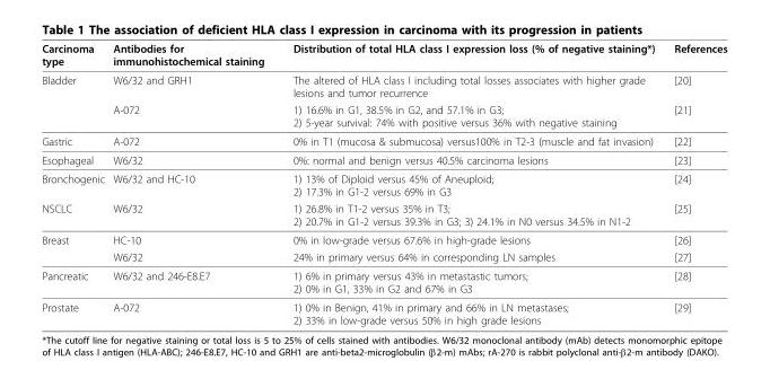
<table><thead><tr><td>Carcinoma type</td><td>Antibodies for immunohistochemical staining</td><td>Distribution of total HLA class I expression loss (% of negative staining*)</td><td>References</td></tr></thead><tbody><tr><td rowspan="2">Bladder</td><td>W6/32 and GRH1</td><td>The altered of HLA class I including total losses associates with higher grade lesions and tumor recurrence</td><td>[20]</td></tr><tr><td>A-072</td><td>1) 16.6% in G1, 38.5% in G2, and 57.1% in G3; 2) 5-year survival: 74% with positive versus 36% with negative staining</td><td>[21]</td></tr><tr><td>Gastric</td><td>A-072</td><td>0% in T1 (mucosa &amp; submucosa) versus100% in T2-3 (muscle and fat invasion)</td><td>[22]</td></tr><tr><td>Esophageal</td><td>W6/32</td><td>0%: normal and benign versus 40.5% carcinoma lesions</td><td>[23]</td></tr><tr><td>Bronchogenic</td><td>W6/32 and HC-10</td><td>1) 13% of Diploid versus 45% of Aneuploid; 2) 17.3% in G1-2 versus 69% in G3</td><td>[24]</td></tr><tr><td>NSCLC</td><td>W6/32</td><td>1) 26.8% in T1-2 versus 35% in T3; 2) 20.7% in G1-2 versus 39.3% in G3; 3) 24.1% in N0 versus 34.5% in N1-2</td><td>[25]</td></tr><tr><td rowspan="2">Breast</td><td>HC-10</td><td>0% in low-grade versus 67.6% in high-grade lesions</td><td>[26]</td></tr><tr><td>W6/32</td><td>24% in primary versus 64% in corresponding LN samples</td><td>[27]</td></tr><tr><td>Pancreatic</td><td>W6/32 and 246-E8.E7</td><td>1) 6% in primary versus 43% in metastastic tumors; 2) 0% in G1, 33% in G2 and 67% in G3</td><td>[28]</td></tr><tr><td>Prostate</td><td>A-072</td><td>1) 0% in Benign, 41% in primary and 66% in LN metastases; 2) 33% in low-grade versus 50% in high grade lesions</td><td>[29]</td></tr></tbody></table>